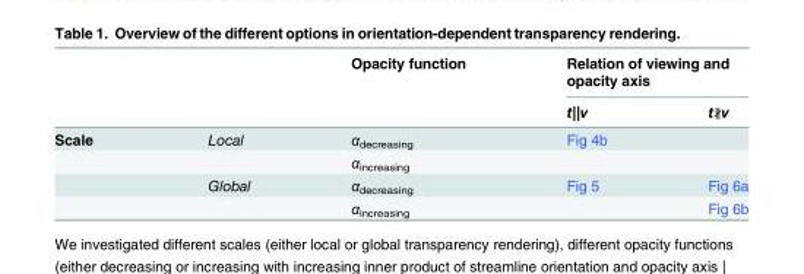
<table><thead><tr><td rowspan="2"></td><td rowspan="2"></td><td rowspan="2">Opacity function</td><td colspan="2">Relation of viewing and opacity axis</td></tr><tr><td>t||v</td><td>t∦v</td></tr></thead><tbody><tr><td rowspan="4">Scale</td><td>Local</td><td>α<sub>decreasing</sub></td><td>Fig 4b</td><td></td></tr><tr><td></td><td>α<sub>increasing</sub></td><td></td><td></td></tr><tr><td>Global</td><td>α<sub>decreasing</sub></td><td>Fig 5</td><td>Fig 6a</td></tr><tr><td></td><td>α<sub>increasing</sub></td><td></td><td>Fig 6b</td></tr></tbody></table>